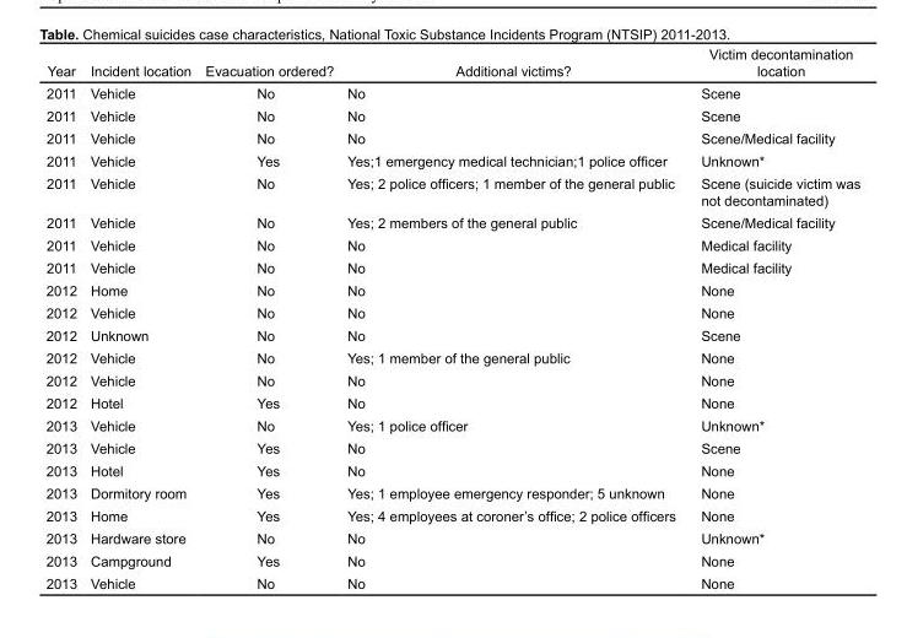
<table><thead><tr><td>Year</td><td>Incident location</td><td>Evacuation ordered?</td><td>Additional victims?</td><td>Victim decontamination location</td></tr></thead><tbody><tr><td>2011</td><td>Vehicle</td><td>No</td><td>No</td><td>Scene</td></tr><tr><td>2011</td><td>Vehicle</td><td>No</td><td>No</td><td>Scene</td></tr><tr><td>2011</td><td>Vehicle</td><td>No</td><td>No</td><td>Scene/Medical facility</td></tr><tr><td>2011</td><td>Vehicle</td><td>Yes</td><td>Yes;1 emergency medical technician;1 police officer</td><td>Unknown*</td></tr><tr><td>2011</td><td>Vehicle</td><td>No</td><td>Yes; 2 police officers; 1 member of the general public</td><td>Scene (suicide victim was not decontaminated)</td></tr><tr><td>2011</td><td>Vehicle</td><td>No</td><td>Yes; 2 members of the general public</td><td>Scene/Medical facility</td></tr><tr><td>2011</td><td>Vehicle</td><td>No</td><td>No</td><td>Medical facility</td></tr><tr><td>2011</td><td>Vehicle</td><td>No</td><td>No</td><td>Medical facility</td></tr><tr><td>2012</td><td>Home</td><td>No</td><td>No</td><td>None</td></tr><tr><td>2012</td><td>Vehicle</td><td>No</td><td>No</td><td>None</td></tr><tr><td>2012</td><td>Unknown</td><td>No</td><td>No</td><td>Scene</td></tr><tr><td>2012</td><td>Vehicle</td><td>No</td><td>Yes; 1 member of the general public</td><td>None</td></tr><tr><td>2012</td><td>Vehicle</td><td>No</td><td>No</td><td>None</td></tr><tr><td>2012</td><td>Hotel</td><td>Yes</td><td>No</td><td>None</td></tr><tr><td>2013</td><td>Vehicle</td><td>No</td><td>Yes; 1 police officer</td><td>Unknown*</td></tr><tr><td>2013</td><td>Vehicle</td><td>Yes</td><td>No</td><td>Scene</td></tr><tr><td>2013</td><td>Hotel</td><td>Yes</td><td>No</td><td>None</td></tr><tr><td>2013</td><td>Dormitory room</td><td>Yes</td><td>Yes; 1 employee emergency responder; 5 unknown</td><td>None</td></tr><tr><td>2013</td><td>Home</td><td>Yes</td><td>Yes; 4 employees at coroner’s office; 2 police officers</td><td>None</td></tr><tr><td>2013</td><td>Hardware store</td><td>No</td><td>No</td><td>Unknown*</td></tr><tr><td>2013</td><td>Campground</td><td>Yes</td><td>No</td><td>None</td></tr><tr><td>2013</td><td>Vehicle</td><td>No</td><td>No</td><td>None</td></tr></tbody></table>